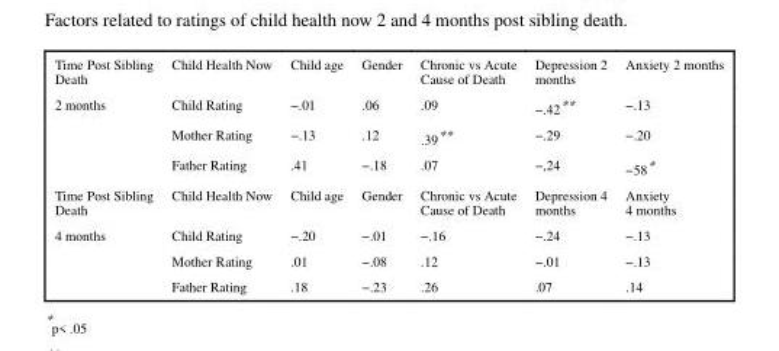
<table><tbody><tr><td>Time Post Sibling Death</td><td>Child Health Now</td><td>Child age</td><td>Gender</td><td>Chronic vs Acute Cause of Death</td><td>Depression 2 months</td><td>Anxiety 2 months</td></tr><tr><td rowspan="3">2 months</td><td>Child Rating</td><td>−.01</td><td>.06</td><td>.09</td><td>−.42**</td><td>−.13</td></tr><tr><td>Mother Rating</td><td>−.13</td><td>.12</td><td>.39**</td><td>−.29</td><td>−.20</td></tr><tr><td>Father Rating</td><td>.41</td><td>−.18</td><td>.07</td><td>−,24</td><td>−58*</td></tr><tr><td>Time Post Sibling Death</td><td>Child Health Now</td><td>Child age</td><td>Gender</td><td>Chronic vs Acute Cause of Death</td><td>Depression 4 months</td><td>Anxiety 4 months</td></tr><tr><td rowspan="3">4 months</td><td>Child Rating</td><td>−.20</td><td>−.01</td><td>−.16</td><td>−.24</td><td>−.13</td></tr><tr><td>Mother Rating</td><td>.01</td><td>−.08</td><td>.12</td><td>−.01</td><td>−.13</td></tr><tr><td>Father Rating</td><td>.18</td><td>−.23</td><td>.26</td><td>.07</td><td>.14</td></tr></tbody></table>